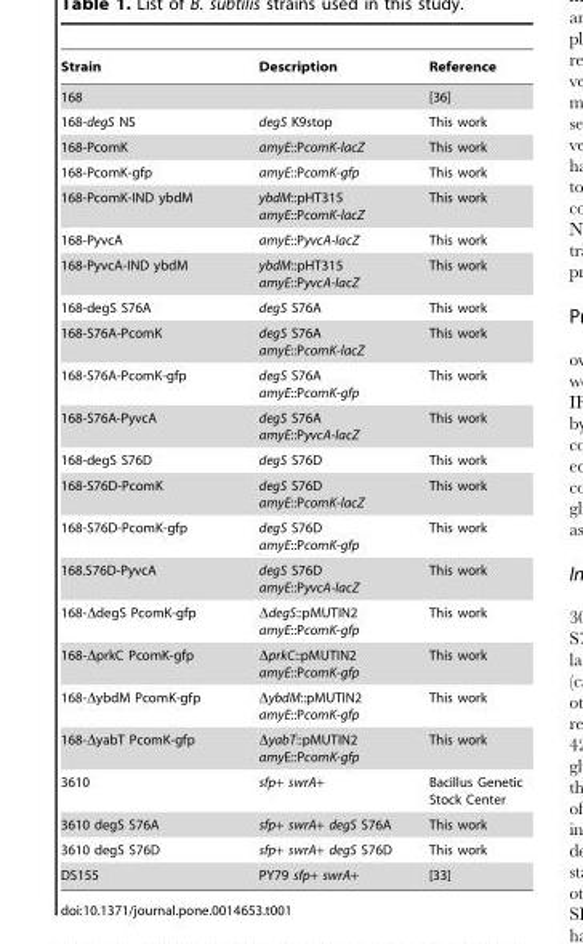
<table><thead><tr><td>Strain</td><td>Description</td><td>Reference</td></tr></thead><tbody><tr><td>168</td><td></td><td>[36]</td></tr><tr><td>168-degS NS</td><td>degS K9stop</td><td>This work</td></tr><tr><td>168-PcomK</td><td>amyE::PcomK-lacZ</td><td>This work</td></tr><tr><td>168-PcomK-gfp</td><td>amyE::PcomK-gfp</td><td>This work</td></tr><tr><td>168-PcomK-IND ybdM</td><td>ybdM::pHT315 amyE::PcomK-lacZ</td><td>This work</td></tr><tr><td>168-PyvcA</td><td>amyE::PyvcA-lacZ</td><td>This work</td></tr><tr><td>168-PyvcA-IND ybdM</td><td>ybdM::pHT315 amyE::PyvcA-lacZ</td><td>This work</td></tr><tr><td>168-degS S76A</td><td>degS S76A</td><td>This work</td></tr><tr><td>168-S76A-PcomK</td><td>degS S76A amyE::PcomK-lacZ</td><td>This work</td></tr><tr><td>168-S76A-PcomK-gfp</td><td>degS S76A amyE::PcomK-gfp</td><td>This work</td></tr><tr><td>168-S76A-PyvcA</td><td>degS S76A amyE::PyvcA-lacZ</td><td>This work</td></tr><tr><td>168-degS S76D</td><td>degS S76D</td><td>This work</td></tr><tr><td>168-S76D-PcomK</td><td>degS S76D amyE::PcomK-lacZ</td><td>This work</td></tr><tr><td>168-S76D-PcomK-gfp</td><td>degS S76D amyE::PcomK-gfp</td><td>This work</td></tr><tr><td>168.S76D-PyvcA</td><td>degS S76D amyE::PyvcA-lacZ</td><td>This work</td></tr><tr><td>168-ΔdegS PcomK-gfp</td><td>ΔdegS::pMUTIN2 amyE::PcomK-gfp</td><td>This work</td></tr><tr><td>168-ΔprkC PcomK-gfp</td><td>ΔprkC::pMUTIN2 amyE::PcomK-gfp</td><td>This work</td></tr><tr><td>168-ΔybdM PcomK-gfp</td><td>ΔybdM::pMUTIN2 amyE::PcomK-gfp</td><td>This work</td></tr><tr><td>168-ΔyabT PcomK-gfp</td><td>ΔyabT::pMUTIN2 amyE::PcomK-gfp</td><td>This work</td></tr><tr><td>3610</td><td>sfp+ swrA+</td><td>Bacillus Genetic Stock Center</td></tr><tr><td>3610 degS S76A</td><td>sfp+ swrA+ degS S76A</td><td>This work</td></tr><tr><td>3610 degS S76D</td><td>sfp+ swrA+ degS S76D</td><td>This work</td></tr><tr><td>DS155</td><td>PY79 sfp+ swrA+</td><td>[33]</td></tr></tbody></table>